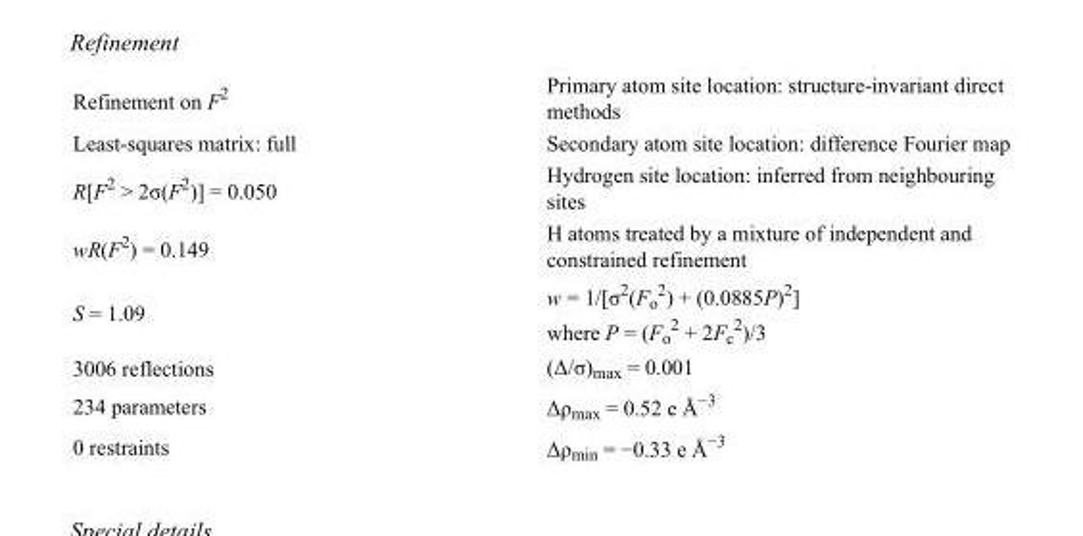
<table><tbody><tr><td>Refinement on F<sup>2</sup></td><td>Primary atom site location: structure-invariant direct methods</td></tr><tr><td>Least-squares matrix: full</td><td>Secondary atom site location: difference Fourier map</td></tr><tr><td>R[F<sup>2</sup> &gt; 2σ(F<sup>2</sup>)] = 0.050</td><td>Hydrogen site location: inferred from neighbouring sites</td></tr><tr><td>wR(F<sup>2</sup>) = 0.149</td><td>H atoms treated by a mixture of independent and constrained refinement</td></tr><tr><td>S = 1.09</td><td>w = 1/[σ<sup>2</sup>(F<sub>o</sub> <sup>2</sup>) + (0.0885P)<sup>2</sup>] where P = (F<sub>o</sub> <sup>2</sup> + 2F<sub>c</sub> <sup>2</sup>)/3</td></tr><tr><td>3006 reflections</td><td>(Δ/σ)<sub>max</sub> = 0.001</td></tr><tr><td>234 parameters</td><td>Δρ<sub>max</sub> = 0.52 e Å<sup>−3</sup></td></tr><tr><td>0 restraints</td><td>Δρ<sub>min</sub> = −0.33 e Å<sup>−3</sup></td></tr></tbody></table>